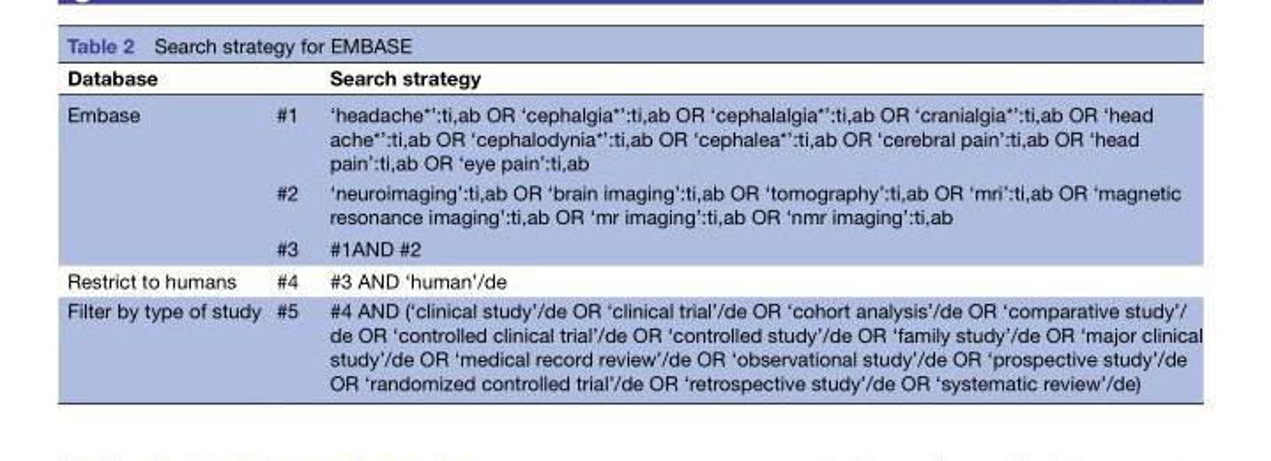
<table><thead><tr><td>Database</td><td></td><td>Search strategy</td></tr></thead><tbody><tr><td rowspan="3">Embase</td><td>#1</td><td>‘headache*’:ti,ab OR ‘cephalgia*’:ti,ab OR ‘cephalalgia*’:ti,ab OR ‘cranialgia*’:ti,ab OR ‘head ache*’:ti,ab OR ‘cephalodynia*’:ti,ab OR ‘cephalea*’:ti,ab OR ‘cerebral pain’:ti,ab OR ‘head pain’:ti,ab OR ‘eye pain’:ti,ab</td></tr><tr><td>#2</td><td>‘neuroimaging’:ti,ab OR ‘brain imaging’:ti,ab OR ‘tomography’:ti,ab OR ‘mri’:ti,ab OR ‘magnetic resonance imaging’:ti,ab OR ‘mr imaging’:ti,ab OR ‘nmr imaging’:ti,ab</td></tr><tr><td>#3</td><td>#1AND #2</td></tr><tr><td>Restrict to humans</td><td>#4</td><td>#3 AND ‘human’/de</td></tr><tr><td>Filter by type of study</td><td>#5</td><td>#4 AND (‘clinical study’/de OR ‘clinical trial’/de OR ‘cohort analysis’/de OR ‘comparative study’/ de OR ‘controlled clinical trial’/de OR ‘controlled study’/de OR ‘family study’/de OR ‘major clinical study’/de OR ‘medical record review’/de OR ‘observational study’/de OR ‘prospective study’/de OR ‘randomized controlled trial’/de OR ‘retrospective study’/de OR ‘systematic review’/de)</td></tr></tbody></table>